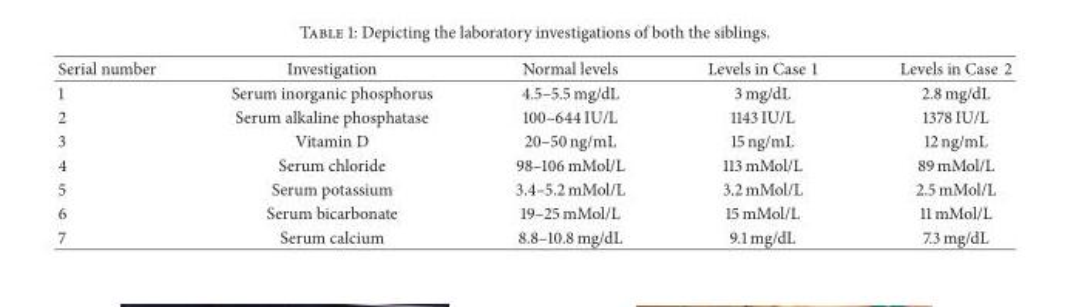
<table><thead><tr><td>Serial number</td><td>Investigation</td><td>Normal levels</td><td>Levels in Case 1</td><td>Levels in Case 2</td></tr></thead><tbody><tr><td>1</td><td>Serum inorganic phosphorus</td><td>4.5–5.5 mg/dL</td><td>3 mg/dL</td><td>2.8 mg/dL</td></tr><tr><td>2</td><td>Serum alkaline phosphatase</td><td>100–644 IU/L</td><td>1143 IU/L</td><td>1378 IU/L</td></tr><tr><td>3</td><td>Vitamin D</td><td>20–50 ng/mL</td><td>15 ng/mL</td><td>12 ng/mL</td></tr><tr><td>4</td><td>Serum chloride</td><td>98–106 mMol/L</td><td>113 mMol/L</td><td>89 mMol/L</td></tr><tr><td>5</td><td>Serum potassium</td><td>3.4–5.2 mMol/L</td><td>3.2 mMol/L</td><td>2.5 mMol/L</td></tr><tr><td>6</td><td>Serum bicarbonate</td><td>19–25 mMol/L</td><td>15 mMol/L</td><td>11 mMol/L</td></tr><tr><td>7</td><td>Serum calcium</td><td>8.8–10.8 mg/dL</td><td>9.1 mg/dL</td><td>7.3 mg/dL</td></tr></tbody></table>